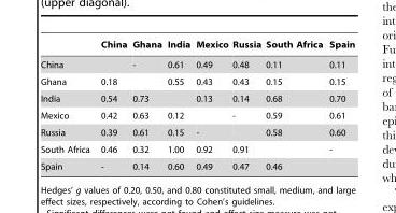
<table><thead><tr><td></td><td>China</td><td>Ghana</td><td>India</td><td>Mexico</td><td>Russia</td><td>South Africa</td><td>Spain</td></tr></thead><tbody><tr><td>China</td><td></td><td>-</td><td>0.61</td><td>0.49</td><td>0.48</td><td>0.11</td><td>0.11</td></tr><tr><td>Ghana</td><td>0.18</td><td></td><td>0.55</td><td>0.43</td><td>0.43</td><td>0.15</td><td>0.15</td></tr><tr><td>India</td><td>0.54</td><td>0.73</td><td></td><td>0.13</td><td>0.14</td><td>0.68</td><td>0.70</td></tr><tr><td>Mexico</td><td>0.42</td><td>0.63</td><td>0.12</td><td></td><td>-</td><td>0.59</td><td>0.61</td></tr><tr><td>Russia</td><td>0.39</td><td>0.61</td><td>0.15</td><td>-</td><td></td><td>0.58</td><td>0.60</td></tr><tr><td>South Africa</td><td>0.46</td><td>0.32</td><td>1.00</td><td>0.92</td><td>0.91</td><td></td><td>-</td></tr><tr><td>Spain</td><td>-</td><td>0.14</td><td>0.60</td><td>0.49</td><td>0.47</td><td>0.46</td><td></td></tr></tbody></table>